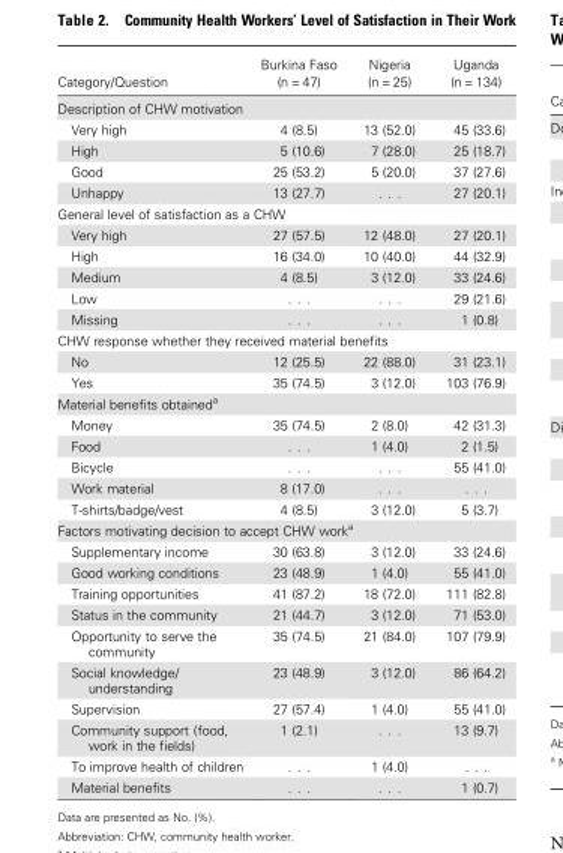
<table><thead><tr><td>Category/Question</td><td>Burkina Faso (n = 47)</td><td>Nigeria (n = 25)</td><td>Uganda (n = 134)</td></tr></thead><tbody><tr><td colspan="4">Description of CHW motivation</td></tr><tr><td>Very high</td><td>4 (8.5)</td><td>13 (52.0)</td><td>45 (33.6)</td></tr><tr><td>High</td><td>5 (10.6)</td><td>7 (28.0)</td><td>25 (18.7)</td></tr><tr><td>Good</td><td>25 (53.2)</td><td>5 (20.0)</td><td>37 (27.6)</td></tr><tr><td>Unhappy</td><td>13 (27.7)</td><td>. . .</td><td>27 (20.1)</td></tr><tr><td colspan="4">General level of satisfaction as a CHW</td></tr><tr><td>Very high</td><td>27 (57.5)</td><td>12 (48.0)</td><td>27 (20.1)</td></tr><tr><td>High</td><td>16 (34.0)</td><td>10 (40.0)</td><td>44 (32.9)</td></tr><tr><td>Medium</td><td>4 (8.5)</td><td>3 (12.0)</td><td>33 (24.6)</td></tr><tr><td>Low</td><td>. . .</td><td>. . .</td><td>29 (21.6)</td></tr><tr><td>Missing</td><td>. . .</td><td>. . .</td><td>1 (0.8)</td></tr><tr><td colspan="4">CHW response whether they received material benefits</td></tr><tr><td>No</td><td>12 (25.5)</td><td>22 (88.0)</td><td>31 (23.1)</td></tr><tr><td>Yes</td><td>35 (74.5)</td><td>3 (12.0)</td><td>103 (76.9)</td></tr><tr><td colspan="4">Material benefits obtained<sup>a</sup></td></tr><tr><td>Money</td><td>35 (74.5)</td><td>2 (8.0)</td><td>42 (31.3)</td></tr><tr><td>Food</td><td>. . .</td><td>1 (4.0)</td><td>2 (1.5)</td></tr><tr><td>Bicycle</td><td>. . .</td><td>. . .</td><td>55 (41.0)</td></tr><tr><td>Work material</td><td>8 (17.0)</td><td>. . .</td><td>. . .</td></tr><tr><td>T-shirts/badge/vest</td><td>4 (8.5)</td><td>3 (12.0)</td><td>5 (3.7)</td></tr><tr><td colspan="4">Factors motivating decision to accept CHW work<sup>a</sup></td></tr><tr><td>Supplementary income</td><td>30 (63.8)</td><td>3 (12.0)</td><td>33 (24.6)</td></tr><tr><td>Good working conditions</td><td>23 (48.9)</td><td>1 (4.0)</td><td>55 (41.0)</td></tr><tr><td>Training opportunities</td><td>41 (87.2)</td><td>18 (72.0)</td><td>111 (82.8)</td></tr><tr><td>Status in the community</td><td>21 (44.7)</td><td>3 (12.0)</td><td>71 (53.0)</td></tr><tr><td>Opportunity to serve the community</td><td>35 (74.5)</td><td>21 (84.0)</td><td>107 (79.9)</td></tr><tr><td>Social knowledge/ understanding</td><td>23 (48.9)</td><td>3 (12.0)</td><td>86 (64.2)</td></tr><tr><td>Supervision</td><td>27 (57.4)</td><td>1 (4.0)</td><td>55 (41.0)</td></tr><tr><td>Community support (food, work in the fields)</td><td>1 (2.1)</td><td>. . .</td><td>13 (9.7)</td></tr><tr><td>To improve health of children</td><td>. . .</td><td>1 (4.0)</td><td>. . .</td></tr><tr><td>Material benefits</td><td>. . .</td><td>. . .</td><td>1 (0.7)</td></tr></tbody></table>